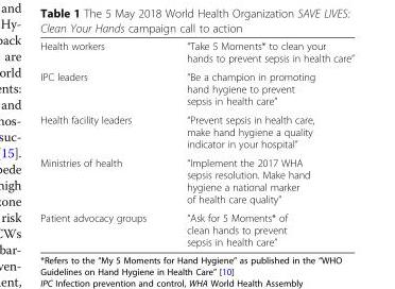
<table><tbody><tr><td>Health workers</td><td>“Take 5 Moments* to clean your hands to prevent sepsis in health care”</td></tr><tr><td>IPC leaders</td><td>“Be a champion in promoting hand hygiene to prevent sepsis in health care”</td></tr><tr><td>Health facility leaders</td><td>“Prevent sepsis in health care, make hand hygiene a quality indicator in your hospital”</td></tr><tr><td>Ministries of health</td><td>“Implement the 2017 WHA sepsis resolution. Make hand hygiene a national marker of health care quality”</td></tr><tr><td>Patient advocacy groups</td><td>“Ask for 5 Moments* of clean hands to prevent sepsis in health care”</td></tr></tbody></table>